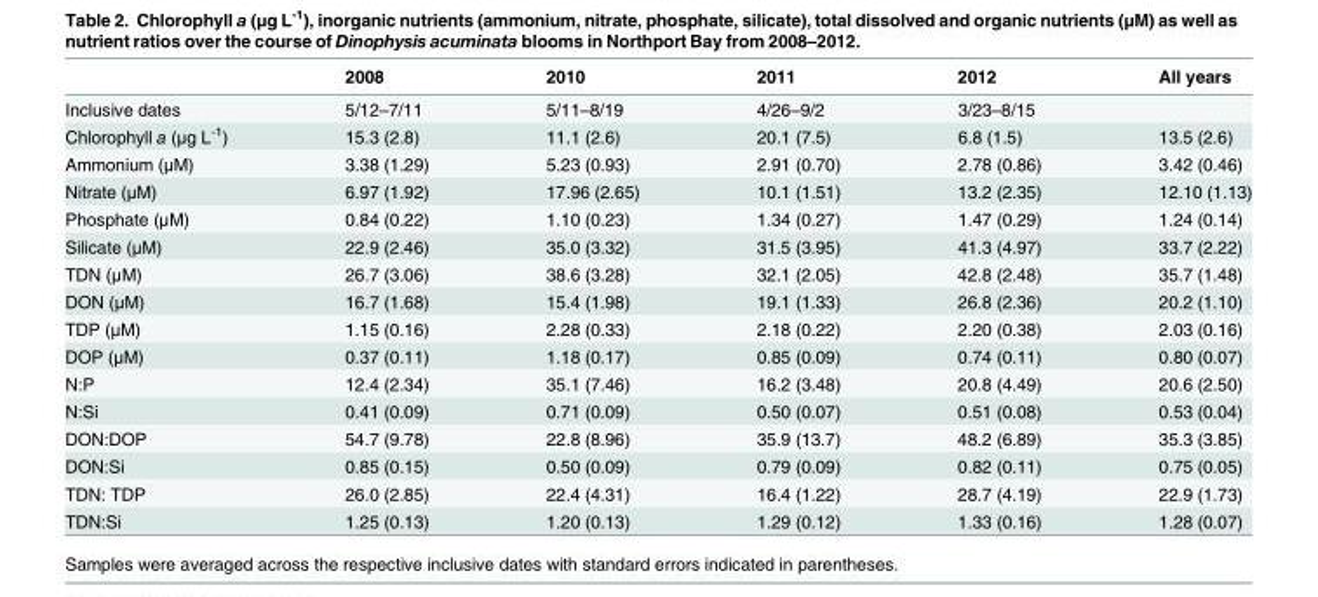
<table><thead><tr><td></td><td>2008</td><td>2010</td><td>2011</td><td>2012</td><td>All years</td></tr></thead><tbody><tr><td>Inclusive dates</td><td>5/12–7/11</td><td>5/11–8/19</td><td>4/26–9/2</td><td>3/23–8/15</td><td></td></tr><tr><td>Chlorophyll a (μg L<sup>-1</sup>)</td><td>15.3 (2.8)</td><td>11.1 (2.6)</td><td>20.1 (7.5)</td><td>6.8 (1.5)</td><td>13.5 (2.6)</td></tr><tr><td>Ammonium (μM)</td><td>3.38 (1.29)</td><td>5.23 (0.93)</td><td>2.91 (0.70)</td><td>2.78 (0.86)</td><td>3.42 (0.46)</td></tr><tr><td>Nitrate (μM)</td><td>6.97 (1.92)</td><td>17.96 (2.65)</td><td>10.1 (1.51)</td><td>13.2 (2.35)</td><td>12.10 (1.13)</td></tr><tr><td>Phosphate (μM)</td><td>0.84 (0.22)</td><td>1.10 (0.23)</td><td>1.34 (0.27)</td><td>1.47 (0.29)</td><td>1.24 (0.14)</td></tr><tr><td>Silicate (μM)</td><td>22.9 (2.46)</td><td>35.0 (3.32)</td><td>31.5 (3.95)</td><td>41.3 (4.97)</td><td>33.7 (2.22)</td></tr><tr><td>TDN (μM)</td><td>26.7 (3.06)</td><td>38.6 (3.28)</td><td>32.1 (2.05)</td><td>42.8 (2.48)</td><td>35.7 (1.48)</td></tr><tr><td>DON (μM)</td><td>16.7 (1.68)</td><td>15.4 (1.98)</td><td>19.1 (1.33)</td><td>26.8 (2.36)</td><td>20.2 (1.10)</td></tr><tr><td>TDP (μM)</td><td>1.15 (0.16)</td><td>2.28 (0.33)</td><td>2.18 (0.22)</td><td>2.20 (0.38)</td><td>2.03 (0.16)</td></tr><tr><td>DOP (μM)</td><td>0.37 (0.11)</td><td>1.18 (0.17)</td><td>0.85 (0.09)</td><td>0.74 (0.11)</td><td>0.80 (0.07)</td></tr><tr><td>N:P</td><td>12.4 (2.34)</td><td>35.1 (7.46)</td><td>16.2 (3.48)</td><td>20.8 (4.49)</td><td>20.6 (2.50)</td></tr><tr><td>N:Si</td><td>0.41 (0.09)</td><td>0.71 (0.09)</td><td>0.50 (0.07)</td><td>0.51 (0.08)</td><td>0.53 (0.04)</td></tr><tr><td>DON:DOP</td><td>54.7 (9.78)</td><td>22.8 (8.96)</td><td>35.9 (13.7)</td><td>48.2 (6.89)</td><td>35.3 (3.85)</td></tr><tr><td>DON:Si</td><td>0.85 (0.15)</td><td>0.50 (0.09)</td><td>0.79 (0.09)</td><td>0.82 (0.11)</td><td>0.75 (0.05)</td></tr><tr><td>TDN: TDP</td><td>26.0 (2.85)</td><td>22.4 (4.31)</td><td>16.4 (1.22)</td><td>28.7 (4.19)</td><td>22.9 (1.73)</td></tr><tr><td>TDN:Si</td><td>1.25 (0.13)</td><td>1.20 (0.13)</td><td>1.29 (0.12)</td><td>1.33 (0.16)</td><td>1.28 (0.07)</td></tr></tbody></table>